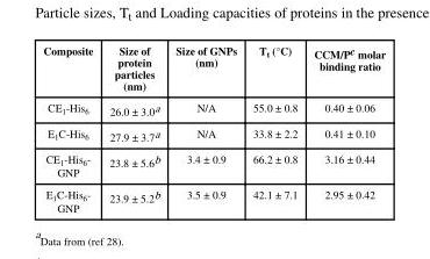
<table><thead><tr><td>Composite</td><td>Size of protein particles (nm)</td><td>Size of GNPs (nm)</td><td>T<sub>t</sub> (°C)</td><td>CCM/P<sup>c</sup> molar binding ratio</td></tr></thead><tbody><tr><td>CE<sub>1</sub>-His<sub>6</sub></td><td>26.0 ± 3.0<sup>a</sup></td><td>N/A</td><td>55.0 ± 0.8</td><td>0.40 ± 0.06</td></tr><tr><td>E<sub>1</sub>C-His<sub>6</sub></td><td>27.9 ± 3.7<sup>a</sup></td><td>N/A</td><td>33.8 ± 2.2</td><td>0.41 ± 0.10</td></tr><tr><td>CE<sub>1</sub>-His<sub>6</sub>- GNP</td><td>23.8 ± 5.6<sup>b</sup></td><td>3.4 ± 0.9</td><td>66.2 ± 0.8</td><td>3.16 ± 0.44</td></tr><tr><td>E<sub>1</sub>C-His<sub>6</sub>- GNP</td><td>23.9 ± 5.2<sup>b</sup></td><td>3.5 ± 0.9</td><td>42.1 ± 7.1</td><td>2.95 ± 0.42</td></tr></tbody></table>